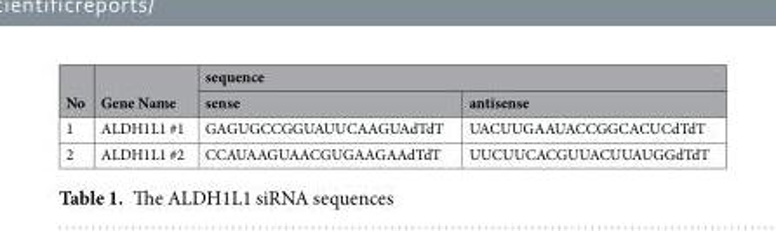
<table><thead><tr><td rowspan="2">No</td><td rowspan="2">Gene Name</td><td colspan="2">sequence</td></tr><tr><td>sense</td><td>antisense</td></tr></thead><tbody><tr><td>1</td><td>ALDH1L1 #1</td><td>GAGUGCCGGUAUUCAAGUAdTdT</td><td>UACUUGAAUACCGGCACUCdTdT</td></tr><tr><td>2</td><td>ALDH1L1 #2</td><td>CCAUAAGUAACGUGAAGAAdTdT</td><td>UUCUUCACGUUACUUAUGGdTdT</td></tr></tbody></table>